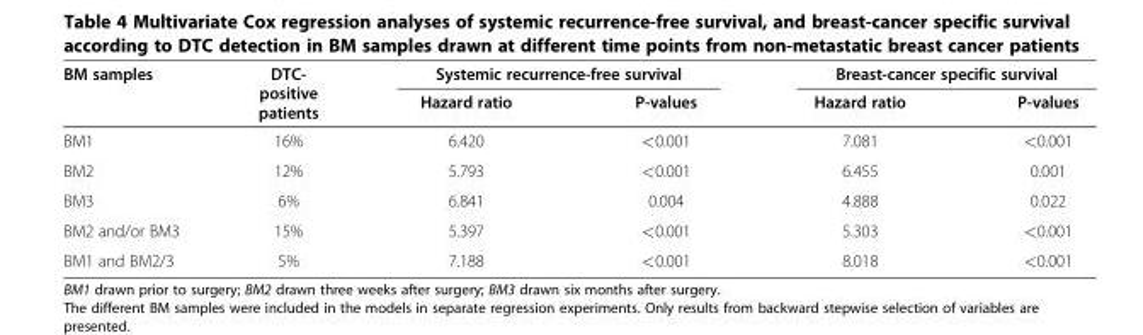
<table><thead><tr><td rowspan="2">BM samples</td><td rowspan="2">DTC- positive patients</td><td colspan="2">Systemic recurrence-free survival</td><td colspan="2">Breast-cancer specific survival</td></tr><tr><td>Hazard ratio</td><td>P-values</td><td>Hazard ratio</td><td>P-values</td></tr></thead><tbody><tr><td>BM1</td><td>16%</td><td>6.420</td><td>&lt;0.001</td><td>7.081</td><td>&lt;0.001</td></tr><tr><td>BM2</td><td>12%</td><td>5.793</td><td>&lt;0.001</td><td>6.455</td><td>0.001</td></tr><tr><td>BM3</td><td>6%</td><td>6.841</td><td>0.004</td><td>4.888</td><td>0.022</td></tr><tr><td>BM2 and/or BM3</td><td>15%</td><td>5.397</td><td>&lt;0.001</td><td>5.303</td><td>&lt;0.001</td></tr><tr><td>BM1 and BM2/3</td><td>5%</td><td>7.188</td><td>&lt;0.001</td><td>8.018</td><td>&lt;0.001</td></tr></tbody></table>